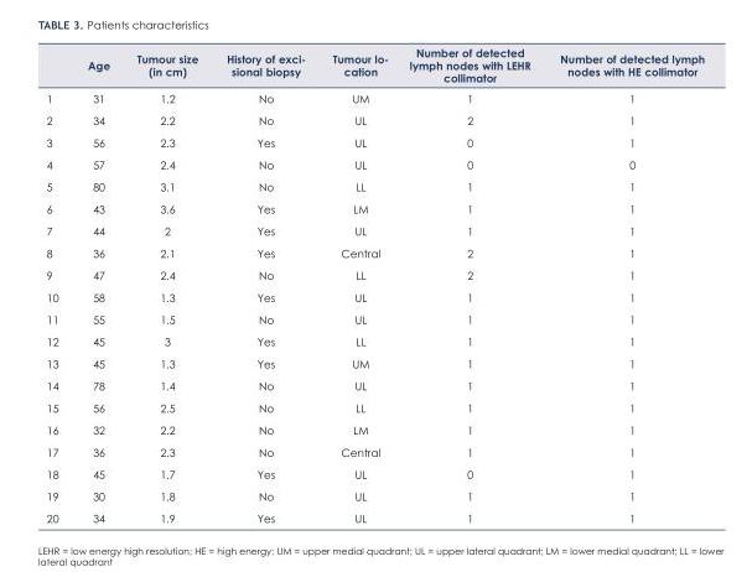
<table><thead><tr><td></td><td>Age</td><td>Tumour size (in cm)</td><td>History of exci- sional biopsy</td><td>Tumour lo- cation</td><td>Number of detected lymph nodes with LEHR collimator</td><td>Number of detected lymph nodes with HE collimator</td></tr></thead><tbody><tr><td>1</td><td>31</td><td>1.2</td><td>No</td><td>UM</td><td>1</td><td>1</td></tr><tr><td>2</td><td>34</td><td>2.2</td><td>No</td><td>UL</td><td>2</td><td>1</td></tr><tr><td>3</td><td>56</td><td>2.3</td><td>Yes</td><td>UL</td><td>0</td><td>1</td></tr><tr><td>4</td><td>57</td><td>2.4</td><td>No</td><td>UL</td><td>0</td><td>0</td></tr><tr><td>5</td><td>80</td><td>3.1</td><td>No</td><td>LL</td><td>1</td><td>1</td></tr><tr><td>6</td><td>43</td><td>3.6</td><td>Yes</td><td>LM</td><td>1</td><td>1</td></tr><tr><td>7</td><td>44</td><td>2</td><td>Yes</td><td>UL</td><td>1</td><td>1</td></tr><tr><td>8</td><td>36</td><td>2.1</td><td>Yes</td><td>Central</td><td>2</td><td>1</td></tr><tr><td>9</td><td>47</td><td>2.4</td><td>No</td><td>LL</td><td>2</td><td>1</td></tr><tr><td>10</td><td>58</td><td>1.3</td><td>Yes</td><td>UL</td><td>1</td><td>1</td></tr><tr><td>11</td><td>55</td><td>1.5</td><td>No</td><td>UL</td><td>1</td><td>1</td></tr><tr><td>12</td><td>45</td><td>3</td><td>Yes</td><td>LL</td><td>1</td><td>1</td></tr><tr><td>13</td><td>45</td><td>1.3</td><td>Yes</td><td>UM</td><td>1</td><td>1</td></tr><tr><td>14</td><td>78</td><td>1.4</td><td>No</td><td>UL</td><td>1</td><td>1</td></tr><tr><td>15</td><td>56</td><td>2.5</td><td>No</td><td>LL</td><td>1</td><td>1</td></tr><tr><td>16</td><td>32</td><td>2.2</td><td>No</td><td>LM</td><td>1</td><td>1</td></tr><tr><td>17</td><td>36</td><td>2.3</td><td>No</td><td>Central</td><td>1</td><td>1</td></tr><tr><td>18</td><td>45</td><td>1.7</td><td>Yes</td><td>UL</td><td>0</td><td>1</td></tr><tr><td>19</td><td>30</td><td>1.8</td><td>No</td><td>UL</td><td>1</td><td>1</td></tr><tr><td>20</td><td>34</td><td>1.9</td><td>Yes</td><td>UL</td><td>1</td><td>1</td></tr></tbody></table>